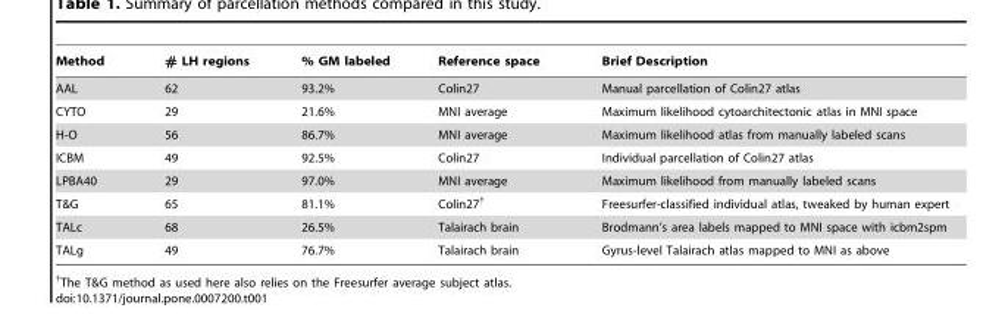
<table><thead><tr><td>Method</td><td># LH regions</td><td>% GM labeled</td><td>Reference space</td><td>Brief Description</td></tr></thead><tbody><tr><td>AAL</td><td>62</td><td>93.2%</td><td>Colin27</td><td>Manual parcellation of Colin27 atlas</td></tr><tr><td>CYTO</td><td>29</td><td>21.6%</td><td>MNI average</td><td>Maximum likelihood cytoarchitectonic atlas in MNI space</td></tr><tr><td>H-O</td><td>56</td><td>86.7%</td><td>MNI average</td><td>Maximum likelihood atlas from manually labeled scans</td></tr><tr><td>ICBM</td><td>49</td><td>92.5%</td><td>Colin27</td><td>Individual parcellation of Colin27 atlas</td></tr><tr><td>LPBA40</td><td>29</td><td>97.0%</td><td>MNI average</td><td>Maximum likelihood from manually labeled scans</td></tr><tr><td>T&amp;G</td><td>65</td><td>81.1%</td><td>Colin27†</td><td>Freesurfer-classified individual atlas, tweaked by human expert</td></tr><tr><td>TALc</td><td>68</td><td>26.5%</td><td>Talairach brain</td><td>Brodmann’s area labels mapped to MNI space with icbm2spm</td></tr><tr><td>TALg</td><td>49</td><td>76.7%</td><td>Talairach brain</td><td>Gyrus-level Talairach atlas mapped to MNI as above</td></tr></tbody></table>